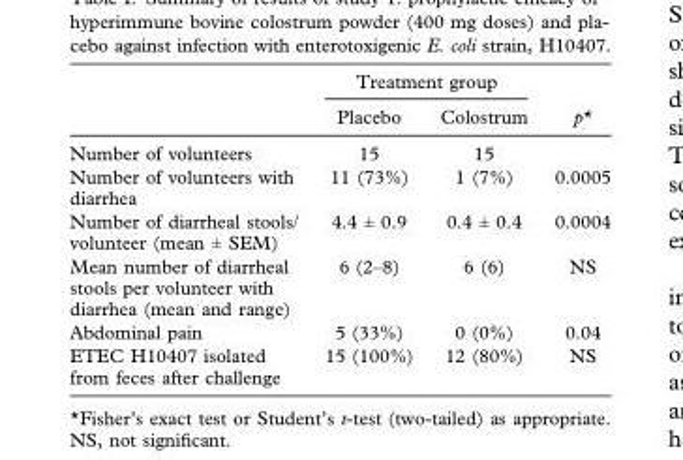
<table><thead><tr><td rowspan="2"></td><td colspan="2">Treatment group</td><td rowspan="2">p*</td></tr><tr><td>Placebo</td><td>Colostrum</td></tr></thead><tbody><tr><td>Number of volunteers</td><td>15</td><td>15</td><td></td></tr><tr><td>Number of volunteers with diarrhea</td><td>11 (73%)</td><td>1 (7%)</td><td>0.0005</td></tr><tr><td>Number of diarrheal stools/ volunteer (mean ± SEM)</td><td>4.4 ± 0.9</td><td>0.4 ± 0.4</td><td>0.0004</td></tr><tr><td>Mean number of diarrheal stools per volunteer with diarrhea (mean and range)</td><td>6 (2–8)</td><td>6 (6)</td><td>NS</td></tr><tr><td>Abdominal pain</td><td>5 (33%)</td><td>0 (0%)</td><td>0.04</td></tr><tr><td>ETEC H10407 isolated from feces after challenge</td><td>15 (100%)</td><td>12 (80%)</td><td>NS</td></tr></tbody></table>